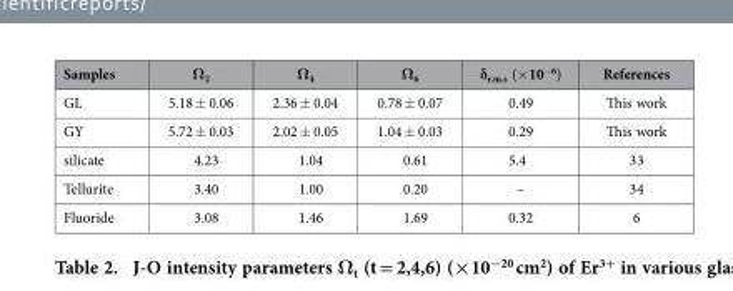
<table><thead><tr><td>Samples</td><td>Ω<sub>2</sub></td><td>Ω<sub>4</sub></td><td>Ω<sub>6</sub></td><td>δ<sub>r.m.s</sub> (× 10<sup>−6</sup>)</td><td>References</td></tr></thead><tbody><tr><td>GL</td><td>5.18 ± 0.06</td><td>2.36 ± 0.04</td><td>0.78 ± 0.07</td><td>0.49</td><td>This work</td></tr><tr><td>GY</td><td>5.72 ± 0.03</td><td>2.02 ± 0.05</td><td>1.04 ± 0.03</td><td>0.29</td><td>This work</td></tr><tr><td>silicate</td><td>4.23</td><td>1.04</td><td>0.61</td><td>5.4</td><td>33</td></tr><tr><td>Tellurite</td><td>3.40</td><td>1.00</td><td>0.20</td><td>–</td><td>34</td></tr><tr><td>Fluoride</td><td>3.08</td><td>1.46</td><td>1.69</td><td>0.32</td><td>6</td></tr></tbody></table>